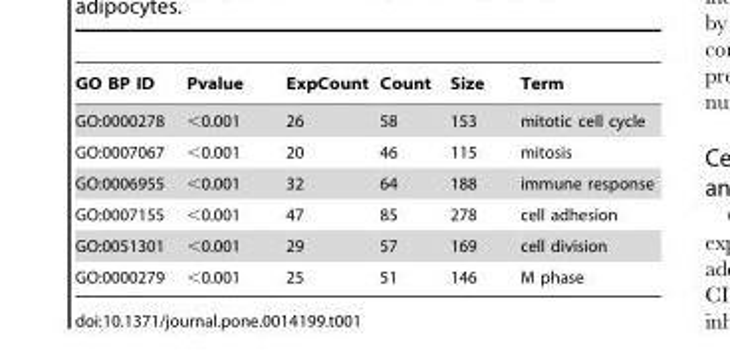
<table><thead><tr><td>GO BP ID</td><td>Pvalue</td><td>ExpCount</td><td>Count</td><td>Size</td><td>Term</td></tr></thead><tbody><tr><td>GO:0000278</td><td>&lt;0.001</td><td>26</td><td>58</td><td>153</td><td>mitotic cell cycle</td></tr><tr><td>GO:0007067</td><td>&lt;0.001</td><td>20</td><td>46</td><td>115</td><td>mitosis</td></tr><tr><td>GO:0006955</td><td>&lt;0.001</td><td>32</td><td>64</td><td>188</td><td>immune response</td></tr><tr><td>GO:0007155</td><td>&lt;0.001</td><td>47</td><td>85</td><td>278</td><td>cell adhesion</td></tr><tr><td>GO:0051301</td><td>&lt;0.001</td><td>29</td><td>57</td><td>169</td><td>cell division</td></tr><tr><td>GO:0000279</td><td>&lt;0.001</td><td>25</td><td>51</td><td>146</td><td>M phase</td></tr></tbody></table>